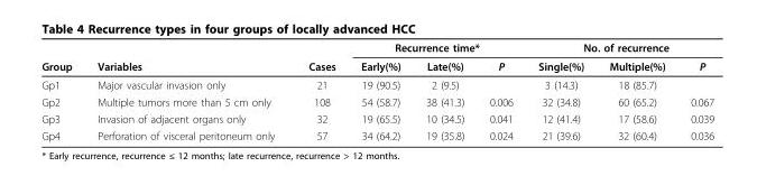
<table><thead><tr><td rowspan="2">Group</td><td rowspan="2">Variables</td><td rowspan="2">Cases</td><td colspan="3">Recurrence time*</td><td colspan="3">No. of recurrence</td></tr><tr><td>Early(%)</td><td>Late(%)</td><td>P</td><td>Single(%)</td><td>Multiple(%)</td><td>P</td></tr></thead><tbody><tr><td>Gp1</td><td>Major vascular invasion only</td><td>21</td><td>19 (90.5)</td><td>2 (9.5)</td><td></td><td>3 (14.3)</td><td>18 (85.7)</td><td></td></tr><tr><td>Gp2</td><td>Multiple tumors more than 5 cm only</td><td>108</td><td>54 (58.7)</td><td>38 (41.3)</td><td>0.006</td><td>32 (34.8)</td><td>60 (65.2)</td><td>0.067</td></tr><tr><td>Gp3</td><td>Invasion of adjacent organs only</td><td>32</td><td>19 (65.5)</td><td>10 (34.5)</td><td>0.041</td><td>12 (41.4)</td><td>17 (58.6)</td><td>0.039</td></tr><tr><td>Gp4</td><td>Perforation of visceral peritoneum only</td><td>57</td><td>34 (64.2)</td><td>19 (35.8)</td><td>0.024</td><td>21 (39.6)</td><td>32 (60.4)</td><td>0.036</td></tr></tbody></table>